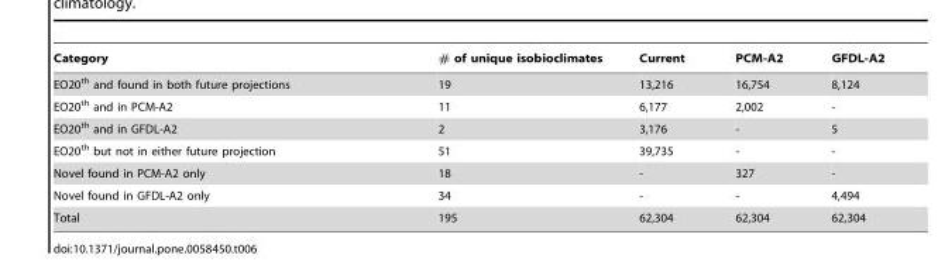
<table><thead><tr><td>Category</td><td># of unique isobioclimates</td><td>Current</td><td>PCM-A2</td><td>GFDL-A2</td></tr></thead><tbody><tr><td>EO20<sup>th</sup> and found in both future projections</td><td>19</td><td>13,216</td><td>16,754</td><td>8,124</td></tr><tr><td>EO20<sup>th</sup> and in PCM-A2</td><td>11</td><td>6,177</td><td>2,002</td><td>-</td></tr><tr><td>EO20<sup>th</sup> and in GFDL-A2</td><td>2</td><td>3,176</td><td>-</td><td>5</td></tr><tr><td>EO20<sup>th</sup> but not in either future projection</td><td>51</td><td>39,735</td><td>-</td><td>-</td></tr><tr><td>Novel found in PCM-A2 only</td><td>18</td><td>-</td><td>327</td><td>-</td></tr><tr><td>Novel found in GFDL-A2 only</td><td>34</td><td>-</td><td>-</td><td>4,494</td></tr><tr><td>Total</td><td>195</td><td>62,304</td><td>62,304</td><td>62,304</td></tr></tbody></table>